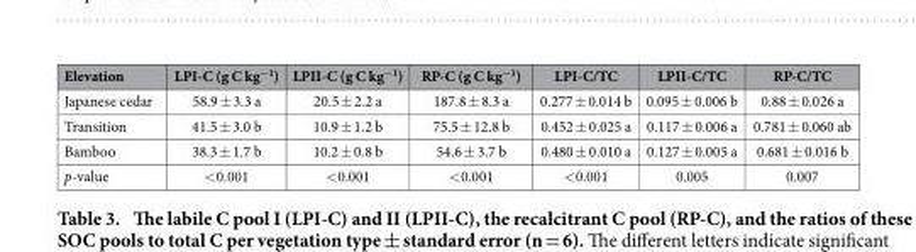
<table><thead><tr><td>Elevation</td><td>LPI-C (g C kg<sup>−1</sup>)</td><td>LPII-C (g C kg<sup>−1</sup>)</td><td>RP-C (g C kg<sup>−1</sup>)</td><td>LPI-C/TC</td><td>LPII-C/TC</td><td>RP-C/TC</td></tr></thead><tbody><tr><td>Japanese cedar</td><td>58.9 ± 3.3 a</td><td>20.5 ± 2.2 a</td><td>187.8 ± 8.3 a</td><td>0.277 ± 0.014 b</td><td>0.095 ± 0.006 b</td><td>0.88 ± 0.026 a</td></tr><tr><td>Transition</td><td>41.5 ± 3.0 b</td><td>10.9 ± 1.2 b</td><td>75.5 ± 12.8 b</td><td>0.452 ± 0.025 a</td><td>0.117 ± 0.006 a</td><td>0.781 ± 0.060 ab</td></tr><tr><td>Bamboo</td><td>38.3 ± 1.7 b</td><td>10.2 ± 0.8 b</td><td>54.6 ± 3.7 b</td><td>0.480 ± 0.010 a</td><td>0.127 ± 0.005 a</td><td>0.681 ± 0.016 b</td></tr><tr><td>p-value</td><td>&lt; 0.001</td><td>&lt; 0.001</td><td>&lt; 0.001</td><td>&lt; 0.001</td><td>0.005</td><td>0.007</td></tr></tbody></table>